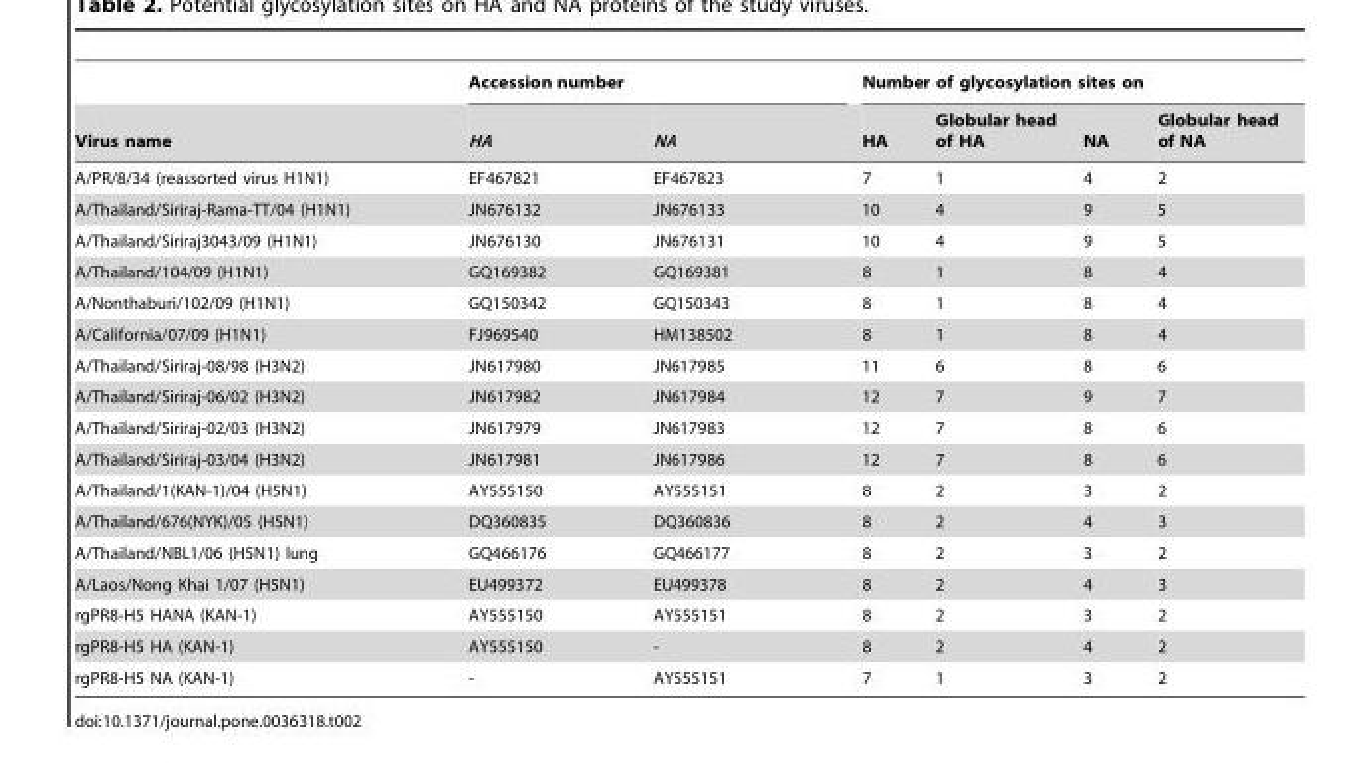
<table><thead><tr><td rowspan="2">Virus name</td><td colspan="2">Accession number</td><td colspan="4">Number of glycosylation sites on</td></tr><tr><td>HA</td><td>NA</td><td>HA</td><td>Globular head of HA</td><td>NA</td><td>Globular head of NA</td></tr></thead><tbody><tr><td>A/PR/8/34 (reassorted virus H1N1)</td><td>EF467821</td><td>EF467823</td><td>7</td><td>1</td><td>4</td><td>2</td></tr><tr><td>A/Thailand/Siriraj-Rama-TT/04 (H1N1)</td><td>JN676132</td><td>JN676133</td><td>10</td><td>4</td><td>9</td><td>5</td></tr><tr><td>A/Thailand/Siriraj3043/09 (H1N1)</td><td>JN676130</td><td>JN676131</td><td>10</td><td>4</td><td>9</td><td>5</td></tr><tr><td>A/Thailand/104/09 (H1N1)</td><td>GQ169382</td><td>GQ169381</td><td>8</td><td>1</td><td>8</td><td>4</td></tr><tr><td>A/Nonthaburi/102/09 (H1N1)</td><td>GQ150342</td><td>GQ150343</td><td>8</td><td>1</td><td>8</td><td>4</td></tr><tr><td>A/California/07/09 (H1N1)</td><td>FJ969540</td><td>HM138502</td><td>8</td><td>1</td><td>8</td><td>4</td></tr><tr><td>A/Thailand/Siriraj-08/98 (H3N2)</td><td>JN617980</td><td>JN617985</td><td>11</td><td>6</td><td>8</td><td>6</td></tr><tr><td>A/Thailand/Siriraj-06/02 (H3N2)</td><td>JN617982</td><td>JN617984</td><td>12</td><td>7</td><td>9</td><td>7</td></tr><tr><td>A/Thailand/Siriraj-02/03 (H3N2)</td><td>JN617979</td><td>JN617983</td><td>12</td><td>7</td><td>8</td><td>6</td></tr><tr><td>A/Thailand/Siriraj-03/04 (H3N2)</td><td>JN617981</td><td>JN617986</td><td>12</td><td>7</td><td>8</td><td>6</td></tr><tr><td>A/Thailand/1(KAN-1)/04 (H5N1)</td><td>AY555150</td><td>AY555151</td><td>8</td><td>2</td><td>3</td><td>2</td></tr><tr><td>A/Thailand/676(NYK)/05 (H5N1)</td><td>DQ360835</td><td>DQ360836</td><td>8</td><td>2</td><td>4</td><td>3</td></tr><tr><td>A/Thailand/NBL1/06 (H5N1) lung</td><td>GQ466176</td><td>GQ466177</td><td>8</td><td>2</td><td>3</td><td>2</td></tr><tr><td>A/Laos/Nong Khai 1/07 (H5N1)</td><td>EU499372</td><td>EU499378</td><td>8</td><td>2</td><td>4</td><td>3</td></tr><tr><td>rgPR8-H5 HANA (KAN-1)</td><td>AY555150</td><td>AY555151</td><td>8</td><td>2</td><td>3</td><td>2</td></tr><tr><td>rgPR8-H5 HA (KAN-1)</td><td>AY555150</td><td>-</td><td>8</td><td>2</td><td>4</td><td>2</td></tr><tr><td>rgPR8-H5 NA (KAN-1)</td><td>-</td><td>AY555151</td><td>7</td><td>1</td><td>3</td><td>2</td></tr></tbody></table>